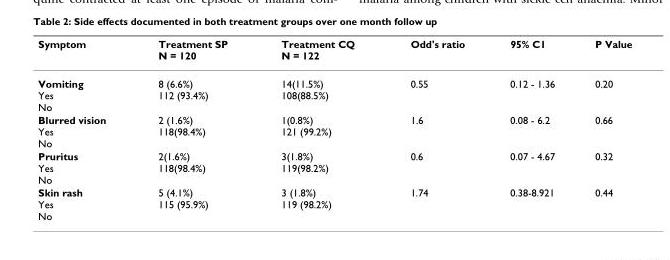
<table><thead><tr><td>Symptom</td><td>Treatment SP N = 120</td><td>Treatment CQ N = 122</td><td>Odd&#x27;s ratio</td><td>95% C1</td><td>P Value</td></tr></thead><tbody><tr><td>Vomiting Yes No</td><td>8 (6.6%) 112 (93.4%)</td><td>14(11.5%) 108(88.5%)</td><td>0.55</td><td>0.12 - 1.36</td><td>0.20</td></tr><tr><td>Blurred vision Yes No</td><td>2 (1.6%) 118(98.4%)</td><td>1(0.8%) 121 (99.2%)</td><td>1.6</td><td>0.08 - 6.2</td><td>0.66</td></tr><tr><td>Pruritus Yes No</td><td>2(1.6%) 118(98.4%)</td><td>3(1.8%) 119(98.2%)</td><td>0.6</td><td>0.07 - 4.67</td><td>0.32</td></tr><tr><td>Skin rash Yes No</td><td>5 (4.1%) 115 (95.9%)</td><td>3 (1.8%) 119 (98.2%)</td><td>1.74</td><td>0.38-8.921</td><td>0.44</td></tr></tbody></table>